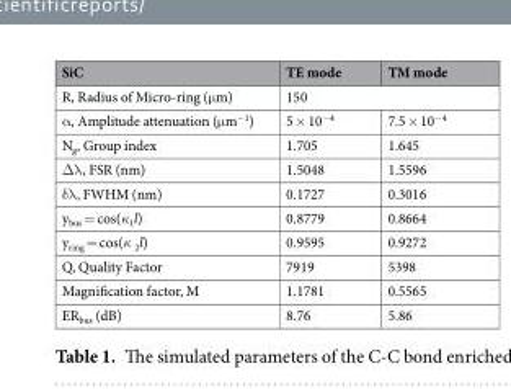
<table><thead><tr><td>SiC</td><td>TE mode</td><td>TM mode</td></tr></thead><tbody><tr><td>R, Radius of Micro-ring (μm)</td><td colspan="2">150</td></tr><tr><td>α, Amplitude attenuation (μm<sup>−1</sup>)</td><td>5 × 10<sup>−4</sup></td><td>7.5 × 10<sup>−4</sup></td></tr><tr><td>N<sub>g</sub>, Group index</td><td>1.705</td><td>1.645</td></tr><tr><td>Δλ, FSR (nm)</td><td>1.5048</td><td>1.5596</td></tr><tr><td>δλ, FWHM (nm)</td><td>0.1727</td><td>0.3016</td></tr><tr><td>y<sub>bus</sub> = cos(κ<sub>1</sub>l)</td><td>0.8779</td><td>0.8664</td></tr><tr><td>y<sub>ring</sub> = cos(κ <sub>2</sub>l)</td><td>0.9595</td><td>0.9272</td></tr><tr><td>Q, Quality Factor</td><td>7919</td><td>5398</td></tr><tr><td>Magnification factor, M</td><td>1.1781</td><td>0.5565</td></tr><tr><td>ER<sub>bus</sub> (dB)</td><td>8.76</td><td>5.86</td></tr></tbody></table>